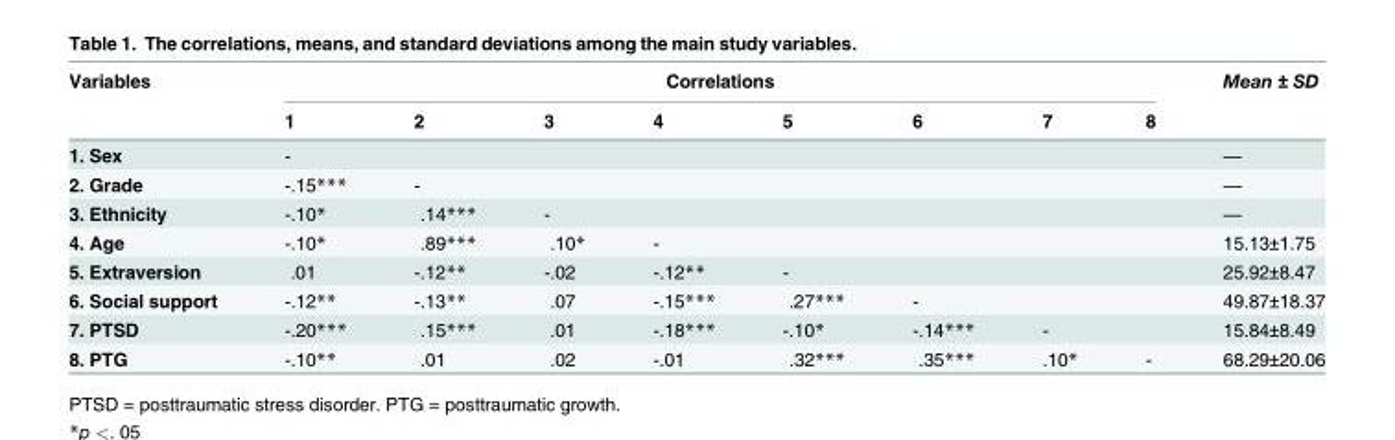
<table><thead><tr><td rowspan="2">Variables</td><td colspan="8">Correlations</td><td rowspan="2">Mean ± SD</td></tr><tr><td>1</td><td>2</td><td>3</td><td>4</td><td>5</td><td>6</td><td>7</td><td>8</td></tr></thead><tbody><tr><td>1. Sex</td><td>-</td><td></td><td></td><td></td><td></td><td></td><td></td><td></td><td>—</td></tr><tr><td>2. Grade</td><td>-.15***</td><td>-</td><td></td><td></td><td></td><td></td><td></td><td></td><td>—</td></tr><tr><td>3. Ethnicity</td><td>-.10*</td><td>.14***</td><td>-</td><td></td><td></td><td></td><td></td><td></td><td>—</td></tr><tr><td>4. Age</td><td>-.10*</td><td>.89***</td><td>.10*</td><td>-</td><td></td><td></td><td></td><td></td><td>15.13±1.75</td></tr><tr><td>5. Extraversion</td><td>.01</td><td>-.12**</td><td>-.02</td><td>-.12**</td><td>-</td><td></td><td></td><td></td><td>25.92±8.47</td></tr><tr><td>6. Social support</td><td>-.12**</td><td>-.13**</td><td>.07</td><td>-.15***</td><td>.27***</td><td>-</td><td></td><td></td><td>49.87±18.37</td></tr><tr><td>7. PTSD</td><td>-.20***</td><td>.15***</td><td>.01</td><td>-.18***</td><td>-.10*</td><td>-.14***</td><td>-</td><td></td><td>15.84±8.49</td></tr><tr><td>8. PTG</td><td>-.10**</td><td>.01</td><td>.02</td><td>-.01</td><td>.32***</td><td>.35***</td><td>.10*</td><td>-</td><td>68.29±20.06</td></tr></tbody></table>